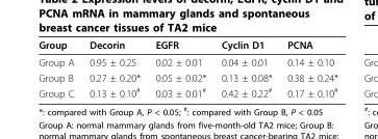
<table><thead><tr><td>Group</td><td>Decorin</td><td>EGFR</td><td>Cyclin D1</td><td>PCNA</td></tr></thead><tbody><tr><td>Group A</td><td>0.95 ± 0.25</td><td>0.02 ± 0.01</td><td>0.04 ± 0.01</td><td>0.14 ± 0.10</td></tr><tr><td>Group B</td><td>0.27 ± 0.20*</td><td>0.05 ± 0.02*</td><td>0.13 ± 0.08*</td><td>0.38 ± 0.24*</td></tr><tr><td>Group C</td><td>0.13 ± 0.10<sup>#</sup></td><td>0.03 ± 0.01<sup>#</sup></td><td>0.42 ± 0.22<sup>#</sup></td><td>0.17 ± 0.10<sup>#</sup></td></tr></tbody></table>